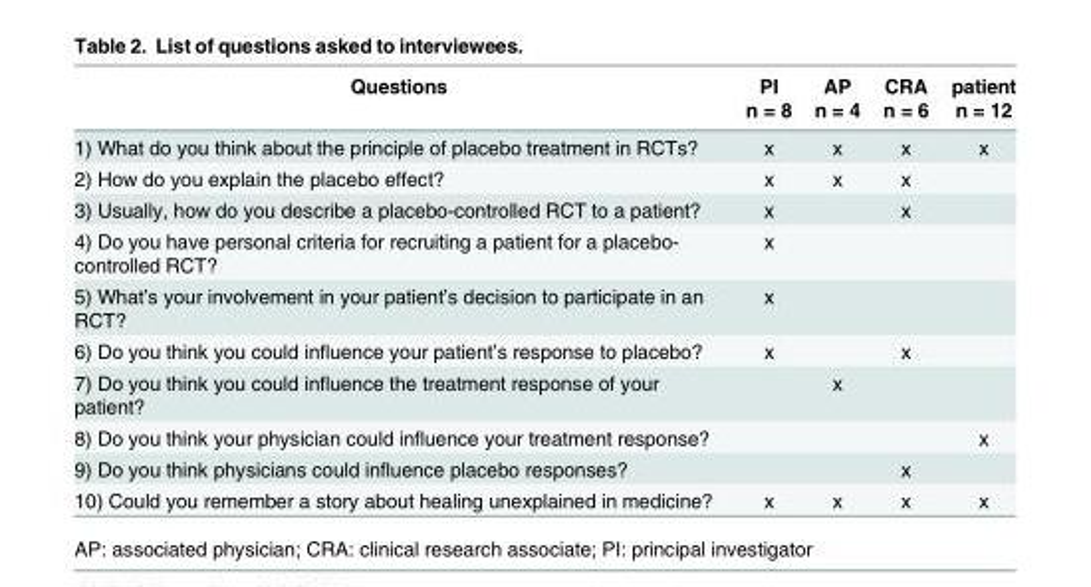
<table><thead><tr><td rowspan="2">Questions</td><td rowspan="2">PI n = 8</td><td rowspan="2">AP n = 4</td><td rowspan="2">CRA n = 6</td><td rowspan="2">patient n = 12</td></tr><tr></tr></thead><tbody><tr><td>1) What do you think about the principle of placebo treatment in RCTs?</td><td>x</td><td>x</td><td>x</td><td>x</td></tr><tr><td>2) How do you explain the placebo effect?</td><td>x</td><td>x</td><td>x</td><td></td></tr><tr><td>3) Usually, how do you describe a placebo-controlled RCT to a patient?</td><td>x</td><td></td><td>x</td><td></td></tr><tr><td>4) Do you have personal criteria for recruiting a patient for a placebo- controlled RCT?</td><td>x</td><td></td><td></td><td></td></tr><tr><td>5) What’s your involvement in your patient’s decision to participate in an RCT?</td><td>x</td><td></td><td></td><td></td></tr><tr><td>6) Do you think you could influence your patient’s response to placebo?</td><td>x</td><td></td><td>x</td><td></td></tr><tr><td>7) Do you think you could influence the treatment response of your patient?</td><td></td><td>x</td><td></td><td></td></tr><tr><td>8) Do you think your physician could influence your treatment response?</td><td></td><td></td><td></td><td>x</td></tr><tr><td>9) Do you think physicians could influence placebo responses?</td><td></td><td></td><td>x</td><td></td></tr><tr><td>10) Could you remember a story about healing unexplained in medicine?</td><td>x</td><td>x</td><td>x</td><td>x</td></tr></tbody></table>